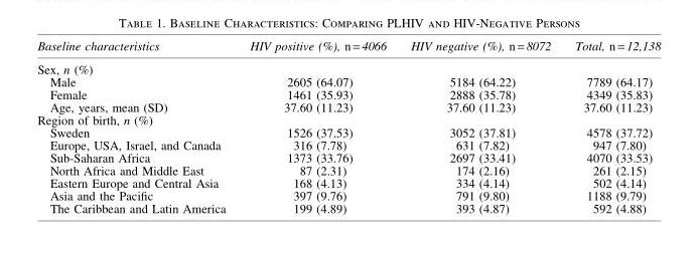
<table><thead><tr><td>Baseline characteristics</td><td>HIV positive (%), n = 4066</td><td>HIV negative (%), n = 8072</td><td>Total, n = 12,138</td></tr></thead><tbody><tr><td colspan="4">Sex, n (%)</td></tr><tr><td>Male</td><td>2605 (64.07)</td><td>5184 (64.22)</td><td>7789 (64.17)</td></tr><tr><td>Female</td><td>1461 (35.93)</td><td>2888 (35.78)</td><td>4349 (35.83)</td></tr><tr><td>Age, years, mean (SD)</td><td>37.60 (11.23)</td><td>37.60 (11.23)</td><td>37.60 (11.23)</td></tr><tr><td colspan="4">Region of birth, n (%)</td></tr><tr><td>Sweden</td><td>1526 (37.53)</td><td>3052 (37.81)</td><td>4578 (37.72)</td></tr><tr><td>Europe, USA, Israel, and Canada</td><td>316 (7.78)</td><td>631 (7.82)</td><td>947 (7.80)</td></tr><tr><td>Sub-Saharan Africa</td><td>1373 (33.76)</td><td>2697 (33.41)</td><td>4070 (33.53)</td></tr><tr><td>North Africa and Middle East</td><td>87 (2.31)</td><td>174 (2.16)</td><td>261 (2.15)</td></tr><tr><td>Eastern Europe and Central Asia</td><td>168 (4.13)</td><td>334 (4.14)</td><td>502 (4.14)</td></tr><tr><td>Asia and the Pacific</td><td>397 (9.76)</td><td>791 (9.80)</td><td>1188 (9.79)</td></tr><tr><td>The Caribbean and Latin America</td><td>199 (4.89)</td><td>393 (4.87)</td><td>592 (4.88)</td></tr></tbody></table>